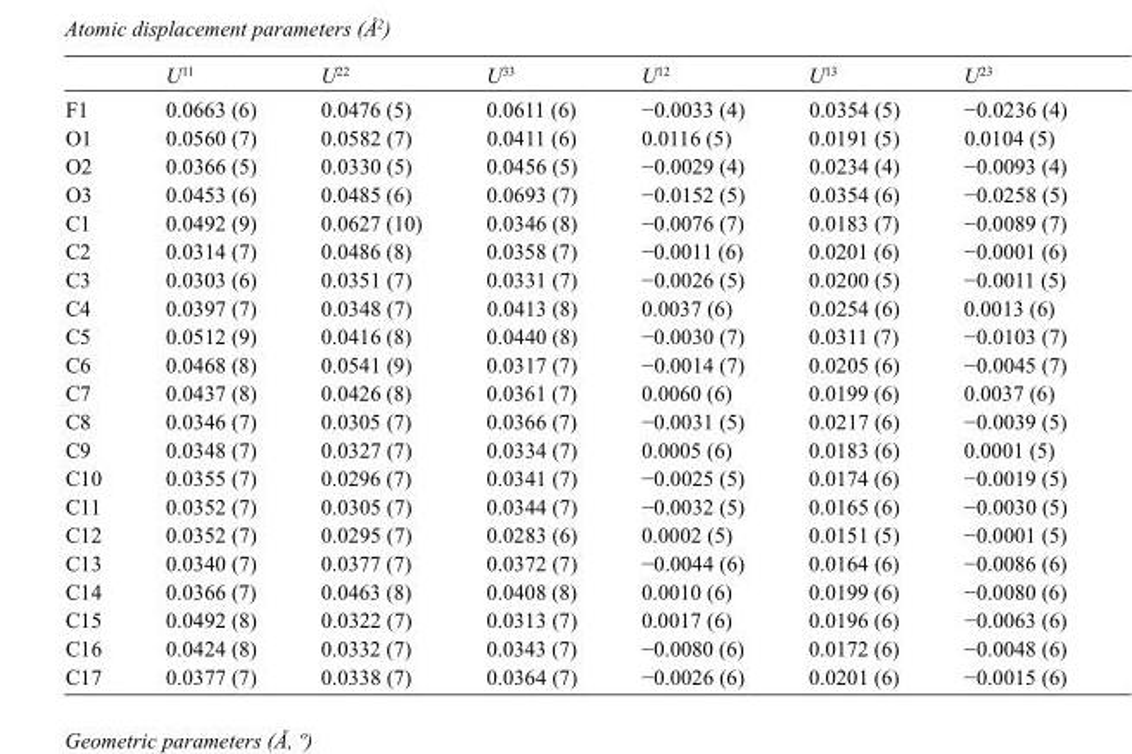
<table><thead><tr><td></td><td>U<sup>11</sup></td><td>U<sup>22</sup></td><td>U<sup>33</sup></td><td>U<sup>12</sup></td><td>U<sup>13</sup></td><td>U<sup>23</sup></td></tr></thead><tbody><tr><td>F1</td><td>0.0663 (6)</td><td>0.0476 (5)</td><td>0.0611 (6)</td><td>−0.0033 (4)</td><td>0.0354 (5)</td><td>−0.0236 (4)</td></tr><tr><td>O1</td><td>0.0560 (7)</td><td>0.0582 (7)</td><td>0.0411 (6)</td><td>0.0116 (5)</td><td>0.0191 (5)</td><td>0.0104 (5)</td></tr><tr><td>O2</td><td>0.0366 (5)</td><td>0.0330 (5)</td><td>0.0456 (5)</td><td>−0.0029 (4)</td><td>0.0234 (4)</td><td>−0.0093 (4)</td></tr><tr><td>O3</td><td>0.0453 (6)</td><td>0.0485 (6)</td><td>0.0693 (7)</td><td>−0.0152 (5)</td><td>0.0354 (6)</td><td>−0.0258 (5)</td></tr><tr><td>C1</td><td>0.0492 (9)</td><td>0.0627 (10)</td><td>0.0346 (8)</td><td>−0.0076 (7)</td><td>0.0183 (7)</td><td>−0.0089 (7)</td></tr><tr><td>C2</td><td>0.0314 (7)</td><td>0.0486 (8)</td><td>0.0358 (7)</td><td>−0.0011 (6)</td><td>0.0201 (6)</td><td>−0.0001 (6)</td></tr><tr><td>C3</td><td>0.0303 (6)</td><td>0.0351 (7)</td><td>0.0331 (7)</td><td>−0.0026 (5)</td><td>0.0200 (5)</td><td>−0.0011 (5)</td></tr><tr><td>C4</td><td>0.0397 (7)</td><td>0.0348 (7)</td><td>0.0413 (8)</td><td>0.0037 (6)</td><td>0.0254 (6)</td><td>0.0013 (6)</td></tr><tr><td>C5</td><td>0.0512 (9)</td><td>0.0416 (8)</td><td>0.0440 (8)</td><td>−0.0030 (7)</td><td>0.0311 (7)</td><td>−0.0103 (7)</td></tr><tr><td>C6</td><td>0.0468 (8)</td><td>0.0541 (9)</td><td>0.0317 (7)</td><td>−0.0014 (7)</td><td>0.0205 (6)</td><td>−0.0045 (7)</td></tr><tr><td>C7</td><td>0.0437 (8)</td><td>0.0426 (8)</td><td>0.0361 (7)</td><td>0.0060 (6)</td><td>0.0199 (6)</td><td>0.0037 (6)</td></tr><tr><td>C8</td><td>0.0346 (7)</td><td>0.0305 (7)</td><td>0.0366 (7)</td><td>−0.0031 (5)</td><td>0.0217 (6)</td><td>−0.0039 (5)</td></tr><tr><td>C9</td><td>0.0348 (7)</td><td>0.0327 (7)</td><td>0.0334 (7)</td><td>0.0005 (6)</td><td>0.0183 (6)</td><td>0.0001 (5)</td></tr><tr><td>C10</td><td>0.0355 (7)</td><td>0.0296 (7)</td><td>0.0341 (7)</td><td>−0.0025 (5)</td><td>0.0174 (6)</td><td>−0.0019 (5)</td></tr><tr><td>C11</td><td>0.0352 (7)</td><td>0.0305 (7)</td><td>0.0344 (7)</td><td>−0.0032 (5)</td><td>0.0165 (6)</td><td>−0.0030 (5)</td></tr><tr><td>C12</td><td>0.0352 (7)</td><td>0.0295 (7)</td><td>0.0283 (6)</td><td>0.0002 (5)</td><td>0.0151 (5)</td><td>−0.0001 (5)</td></tr><tr><td>C13</td><td>0.0340 (7)</td><td>0.0377 (7)</td><td>0.0372 (7)</td><td>−0.0044 (6)</td><td>0.0164 (6)</td><td>−0.0086 (6)</td></tr><tr><td>C14</td><td>0.0366 (7)</td><td>0.0463 (8)</td><td>0.0408 (8)</td><td>0.0010 (6)</td><td>0.0199 (6)</td><td>−0.0080 (6)</td></tr><tr><td>C15</td><td>0.0492 (8)</td><td>0.0322 (7)</td><td>0.0313 (7)</td><td>0.0017 (6)</td><td>0.0196 (6)</td><td>−0.0063 (6)</td></tr><tr><td>C16</td><td>0.0424 (8)</td><td>0.0332 (7)</td><td>0.0343 (7)</td><td>−0.0080 (6)</td><td>0.0172 (6)</td><td>−0.0048 (6)</td></tr><tr><td>C17</td><td>0.0377 (7)</td><td>0.0338 (7)</td><td>0.0364 (7)</td><td>−0.0026 (6)</td><td>0.0201 (6)</td><td>−0.0015 (6)</td></tr></tbody></table>